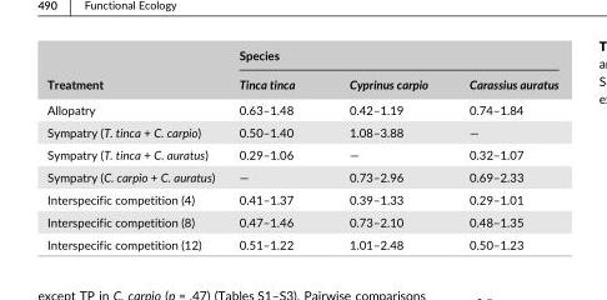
<table><thead><tr><td rowspan="2">Treatment</td><td colspan="3">Species</td></tr><tr><td>Tinca tinca</td><td>Cyprinus carpio</td><td>Carassius auratus</td></tr></thead><tbody><tr><td>Allopatry</td><td>0.63–1.48</td><td>0.42–1.19</td><td>0.74–1.84</td></tr><tr><td>Sympatry (T. tinca + C. carpio)</td><td>0.50–1.40</td><td>1.08–3.88</td><td>—</td></tr><tr><td>Sympatry (T. tinca + C. auratus)</td><td>0.29–1.06</td><td>—</td><td>0.32–1.07</td></tr><tr><td>Sympatry (C. carpio + C. auratus)</td><td>—</td><td>0.73–2.96</td><td>0.69–2.33</td></tr><tr><td>Interspecific competition (4)</td><td>0.41–1.37</td><td>0.39–1.33</td><td>0.29–1.01</td></tr><tr><td>Interspecific competition (8)</td><td>0.47–1.46</td><td>0.73–2.10</td><td>0.48–1.35</td></tr><tr><td>Interspecific competition (12)</td><td>0.51–1.22</td><td>1.01–2.48</td><td>0.50–1.23</td></tr></tbody></table>